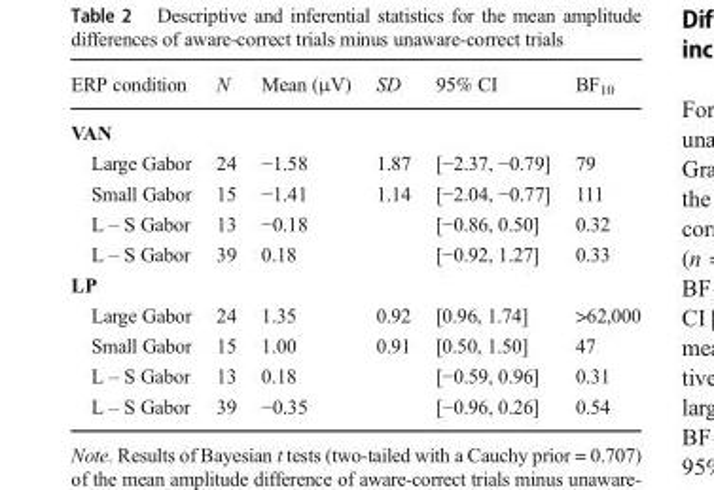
<table><thead><tr><td>ERP condition</td><td>N</td><td>Mean (μV)</td><td>SD</td><td>95% CI</td><td>BF<sub>10</sub></td></tr></thead><tbody><tr><td colspan="6">VAN</td></tr><tr><td>Large Gabor</td><td>24</td><td>−1.58</td><td>1.87</td><td>[−2.37, −0.79]</td><td>79</td></tr><tr><td>Small Gabor</td><td>15</td><td>−1.41</td><td>1.14</td><td>[−2.04, −0.77]</td><td>111</td></tr><tr><td>L – S Gabor</td><td>13</td><td>−0.18</td><td></td><td>[−0.86, 0.50]</td><td>0.32</td></tr><tr><td>L – S Gabor</td><td>39</td><td>0.18</td><td></td><td>[−0.92, 1.27]</td><td>0.33</td></tr><tr><td colspan="6">LP</td></tr><tr><td>Large Gabor</td><td>24</td><td>1.35</td><td>0.92</td><td>[0.96, 1.74]</td><td>&gt;62,000</td></tr><tr><td>Small Gabor</td><td>15</td><td>1.00</td><td>0.91</td><td>[0.50, 1.50]</td><td>47</td></tr><tr><td>L – S Gabor</td><td>13</td><td>0.18</td><td></td><td>[−0.59, 0.96]</td><td>0.31</td></tr><tr><td>L – S Gabor</td><td>39</td><td>−0.35</td><td></td><td>[−0.96, 0.26]</td><td>0.54</td></tr></tbody></table>